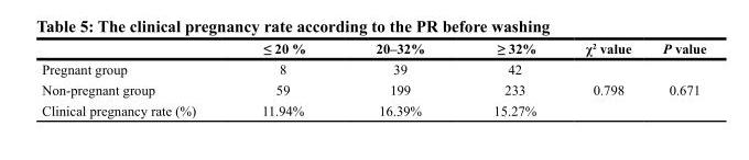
<table><thead><tr><td></td><td>≤ 20 %</td><td>20–32%</td><td>≥ 32%</td><td>χ<sup>2</sup> value</td><td>P value</td></tr></thead><tbody><tr><td>Pregnant group</td><td>8</td><td>39</td><td>42</td><td rowspan="3">0.798</td><td rowspan="3">0.671</td></tr><tr><td>Non-pregnant group</td><td>59</td><td>199</td><td>233</td></tr><tr><td>Clinical pregnancy rate (%)</td><td>11.94%</td><td>16.39%</td><td>15.27%</td></tr></tbody></table>